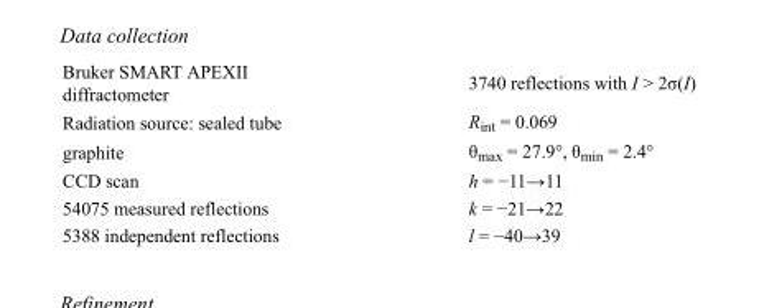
<table><tbody><tr><td>Bruker SMART APEXII diffractometer</td><td>3740 reflections with I &gt; 2σ(I)</td></tr><tr><td>Radiation source: sealed tube</td><td>R<sub>int</sub> = 0.069</td></tr><tr><td>graphite</td><td>θ<sub>max</sub> = 27.9°, θ<sub>min</sub> = 2.4°</td></tr><tr><td>CCD scan</td><td>h = −11→11</td></tr><tr><td>54075 measured reflections</td><td>k = −21→22</td></tr><tr><td>5388 independent reflections</td><td>l = −40→39</td></tr></tbody></table>